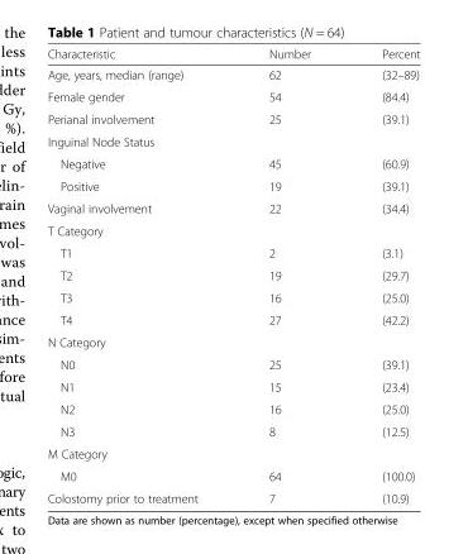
<table><thead><tr><td>Characteristic</td><td>Number</td><td>Percent</td></tr></thead><tbody><tr><td>Age, years, median (range)</td><td>62</td><td>(32–89)</td></tr><tr><td>Female gender</td><td>54</td><td>(84.4)</td></tr><tr><td>Perianal involvement</td><td>25</td><td>(39.1)</td></tr><tr><td colspan="3">Inguinal Node Status</td></tr><tr><td>Negative</td><td>45</td><td>(60.9)</td></tr><tr><td>Positive</td><td>19</td><td>(39.1)</td></tr><tr><td>Vaginal involvement</td><td>22</td><td>(34.4)</td></tr><tr><td colspan="3">T Category</td></tr><tr><td>T1</td><td>2</td><td>(3.1)</td></tr><tr><td>T2</td><td>19</td><td>(29.7)</td></tr><tr><td>T3</td><td>16</td><td>(25.0)</td></tr><tr><td>T4</td><td>27</td><td>(42.2)</td></tr><tr><td colspan="3">N Category</td></tr><tr><td>N0</td><td>25</td><td>(39.1)</td></tr><tr><td>N1</td><td>15</td><td>(23.4)</td></tr><tr><td>N2</td><td>16</td><td>(25.0)</td></tr><tr><td>N3</td><td>8</td><td>(12.5)</td></tr><tr><td colspan="3">M Category</td></tr><tr><td>M0</td><td>64</td><td>(100.0)</td></tr><tr><td>Colostomy prior to treatment</td><td>7</td><td>(10.9)</td></tr></tbody></table>